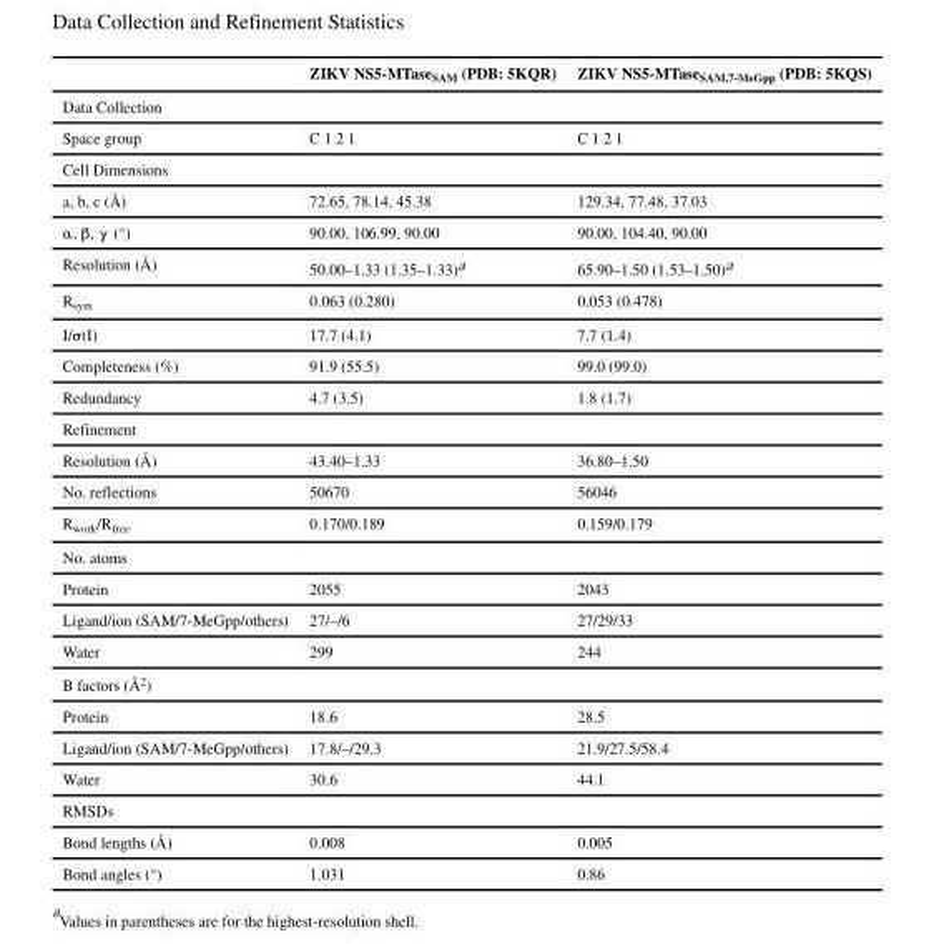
<table><thead><tr><td></td><td>ZIKV NS5-MTase<sub>SAM</sub> (PDB: 5KQR)</td><td>ZIKV NS5-MTase<sub>SAM,7-MeGpp</sub> (PDB: 5KQS)</td></tr></thead><tbody><tr><td colspan="3">Data Collection</td></tr><tr><td>Space group</td><td>C 1 2 1</td><td>C 1 2 1</td></tr><tr><td colspan="3">Cell Dimensions</td></tr><tr><td>a, b, c (Å)</td><td>72.65, 78.14, 45.38</td><td>129.34, 77.48, 37.03</td></tr><tr><td>α, β, γ (°)</td><td>90.00, 106.99, 90.00</td><td>90.00, 104.40, 90.00</td></tr><tr><td>Resolution (Å)</td><td>50.00–1.33 (1.35–1.33)<sup>a</sup></td><td>65.90–1.50 (1.53–1.50)<sup>a</sup></td></tr><tr><td>R<sub>sym</sub></td><td>0.063 (0.280)</td><td>0.053 (0.478)</td></tr><tr><td>I/σ(I)</td><td>17.7 (4.1)</td><td>7.7 (1.4)</td></tr><tr><td>Completeness (%)</td><td>91.9 (55.5)</td><td>99.0 (99.0)</td></tr><tr><td>Redundancy</td><td>4.7 (3.5)</td><td>1.8 (1.7)</td></tr><tr><td colspan="3">Refinement</td></tr><tr><td>Resolution (Å)</td><td>43.40–1.33</td><td>36.80–1.50</td></tr><tr><td>No. reflections</td><td>50670</td><td>56046</td></tr><tr><td>R<sub>work</sub>/R<sub>free</sub></td><td>0.170/0.189</td><td>0.159/0.179</td></tr><tr><td colspan="3">No. atoms</td></tr><tr><td>Protein</td><td>2055</td><td>2043</td></tr><tr><td>Ligand/ion (SAM/7-MeGpp/others)</td><td>27/–/6</td><td>27/29/33</td></tr><tr><td>Water</td><td>299</td><td>244</td></tr><tr><td colspan="3">B factors (Å<sup>2</sup>)</td></tr><tr><td>Protein</td><td>18.6</td><td>28.5</td></tr><tr><td>Ligand/ion (SAM/7-MeGpp/others)</td><td>17.8/–/29.3</td><td>21.9/27.5/58.4</td></tr><tr><td>Water</td><td>30.6</td><td>44.1</td></tr><tr><td colspan="3">RMSDs</td></tr><tr><td>Bond lengths (Å)</td><td>0.008</td><td>0.005</td></tr><tr><td>Bond angles (°)</td><td>1.031</td><td>0.86</td></tr></tbody></table>